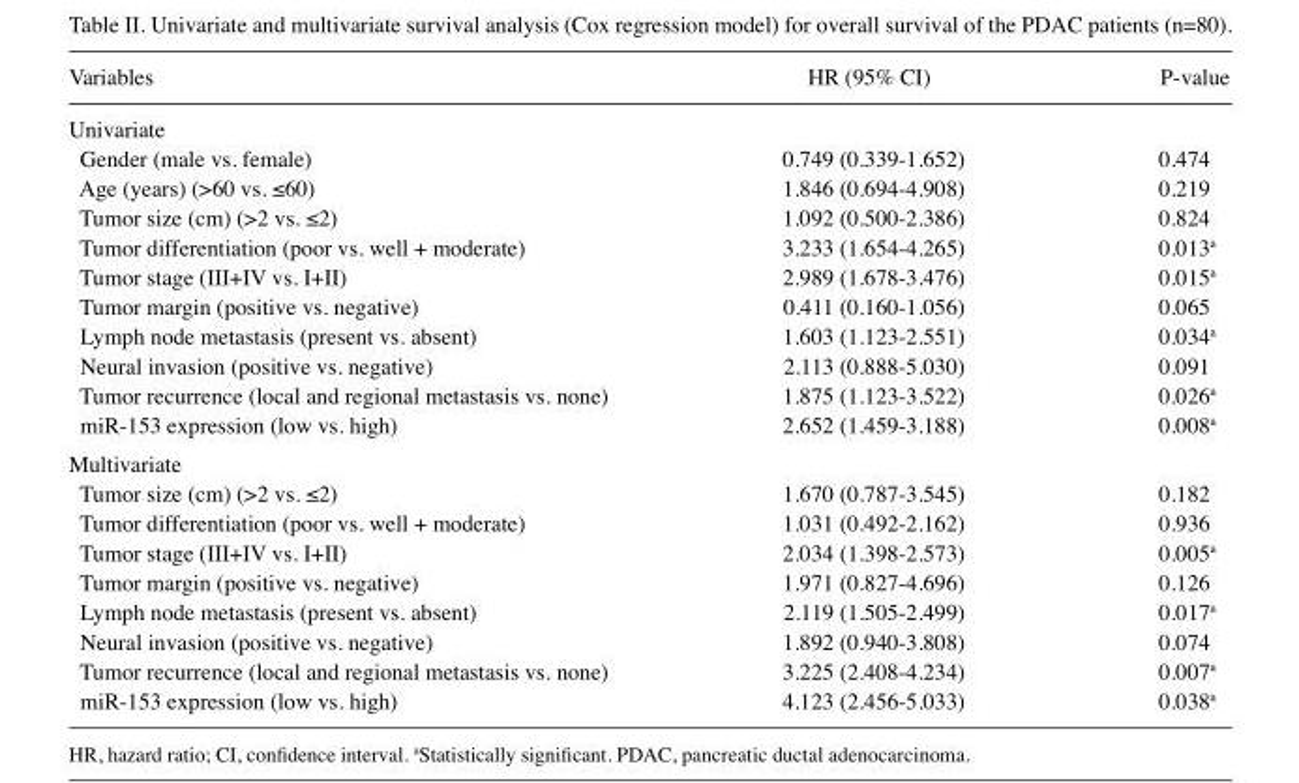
<table><thead><tr><td>Variables</td><td>HR (95% CI)</td><td>P-value</td></tr></thead><tbody><tr><td colspan="3">univariate</td></tr><tr><td>Gender (male vs. female)</td><td>0.749 (0.339-1.652)</td><td>0.474</td></tr><tr><td>Age (years) (&gt;60 vs. ≤60)</td><td>1.846 (0.694-4.908)</td><td>0.219</td></tr><tr><td>Tumor size (cm) (&gt;2 vs. ≤2)</td><td>1.092 (0.500-2.386)</td><td>0.824</td></tr><tr><td>Tumor differentiation (poor vs. well + moderate)</td><td>3.233 (1.654-4.265)</td><td>0.013a</td></tr><tr><td>Tumor stage (III+IV vs. I+II)</td><td>2.989 (1.678-3.476)</td><td>0.015a</td></tr><tr><td>Tumor margin (positive vs. negative)</td><td>0.411 (0.160-1.056)</td><td>0.065</td></tr><tr><td>Lymph node metastasis (present vs. absent)</td><td>1.603 (1.123-2.551)</td><td>0.034a</td></tr><tr><td>Neural invasion (positive vs. negative)</td><td>2.113 (0.888-5.030)</td><td>0.091</td></tr><tr><td>Tumor recurrence (local and regional metastasis vs. none)</td><td>1.875 (1.123-3.522)</td><td>0.026a</td></tr><tr><td>miR-153 expression (low vs. high)</td><td>2.652 (1.459-3.188)</td><td>0.008a</td></tr><tr><td colspan="3">Multivariate</td></tr><tr><td>Tumor size (cm) (&gt;2 vs. ≤2)</td><td>1.670 (0.787-3.545)</td><td>0.182</td></tr><tr><td>Tumor differentiation (poor vs. well + moderate)</td><td>1.031 (0.492-2.162)</td><td>0.936</td></tr><tr><td>Tumor stage (III+IV vs. I+II)</td><td>2.034 (1.398-2.573)</td><td>0.005a</td></tr><tr><td>Tumor margin (positive vs. negative)</td><td>1.971 (0.827-4.696)</td><td>0.126</td></tr><tr><td>Lymph node metastasis (present vs. absent)</td><td>2.119 (1.505-2.499)</td><td>0.017a</td></tr><tr><td>Neural invasion (positive vs. negative)</td><td>1.892 (0.940-3.808)</td><td>0.074</td></tr><tr><td>Tumor recurrence (local and regional metastasis vs. none)</td><td>3.225 (2.408-4.234)</td><td>0.007a</td></tr><tr><td>miR-153 expression (low vs. high)</td><td>4.123 (2.456-5.033)</td><td>0.038a</td></tr></tbody></table>